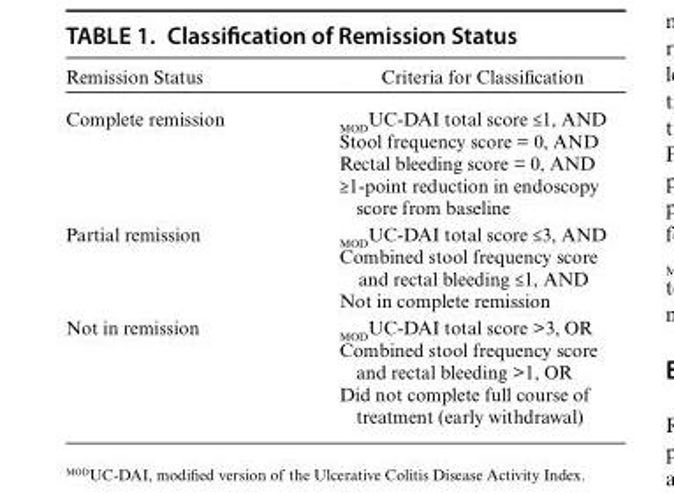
<table><thead><tr><td>Remission Status</td><td>Criteria for Classification</td></tr></thead><tbody><tr><td>Complete remission</td><td><sub>MOD</sub>UC-DAI total score ≤1, AND Stool frequency score = 0, AND Rectal bleeding score = 0, AND ≥1-point reduction in endoscopy score from baseline</td></tr><tr><td>Partial remission</td><td><sub>MOD</sub>UC-DAI total score ≤3, AND Combined stool frequency score and rectal bleeding ≤1, AND Not in complete remission</td></tr><tr><td>Not in remission</td><td><sub>MOD</sub>UC-DAI total score &gt;3, OR Combined stool frequency score and rectal bleeding &gt;1, OR Did not complete full course of treatment (early withdrawal)</td></tr></tbody></table>